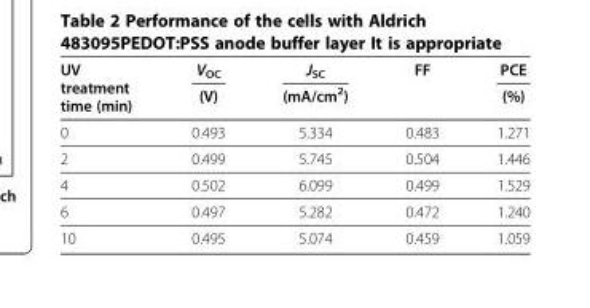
<table><thead><tr><td rowspan="2">UV treatment time (min)</td><td rowspan="2">V<sub>OC</sub> (V)</td><td rowspan="2">J<sub>SC</sub> (mA/cm<sup>2</sup>)</td><td rowspan="2">FF</td><td rowspan="2">PCE (%)</td></tr><tr></tr></thead><tbody><tr><td>0</td><td>0.493</td><td>5.334</td><td>0.483</td><td>1.271</td></tr><tr><td>2</td><td>0.499</td><td>5.745</td><td>0.504</td><td>1.446</td></tr><tr><td>4</td><td>0.502</td><td>6.099</td><td>0.499</td><td>1.529</td></tr><tr><td>6</td><td>0.497</td><td>5.282</td><td>0.472</td><td>1.240</td></tr><tr><td>10</td><td>0.495</td><td>5.074</td><td>0.459</td><td>1.059</td></tr></tbody></table>